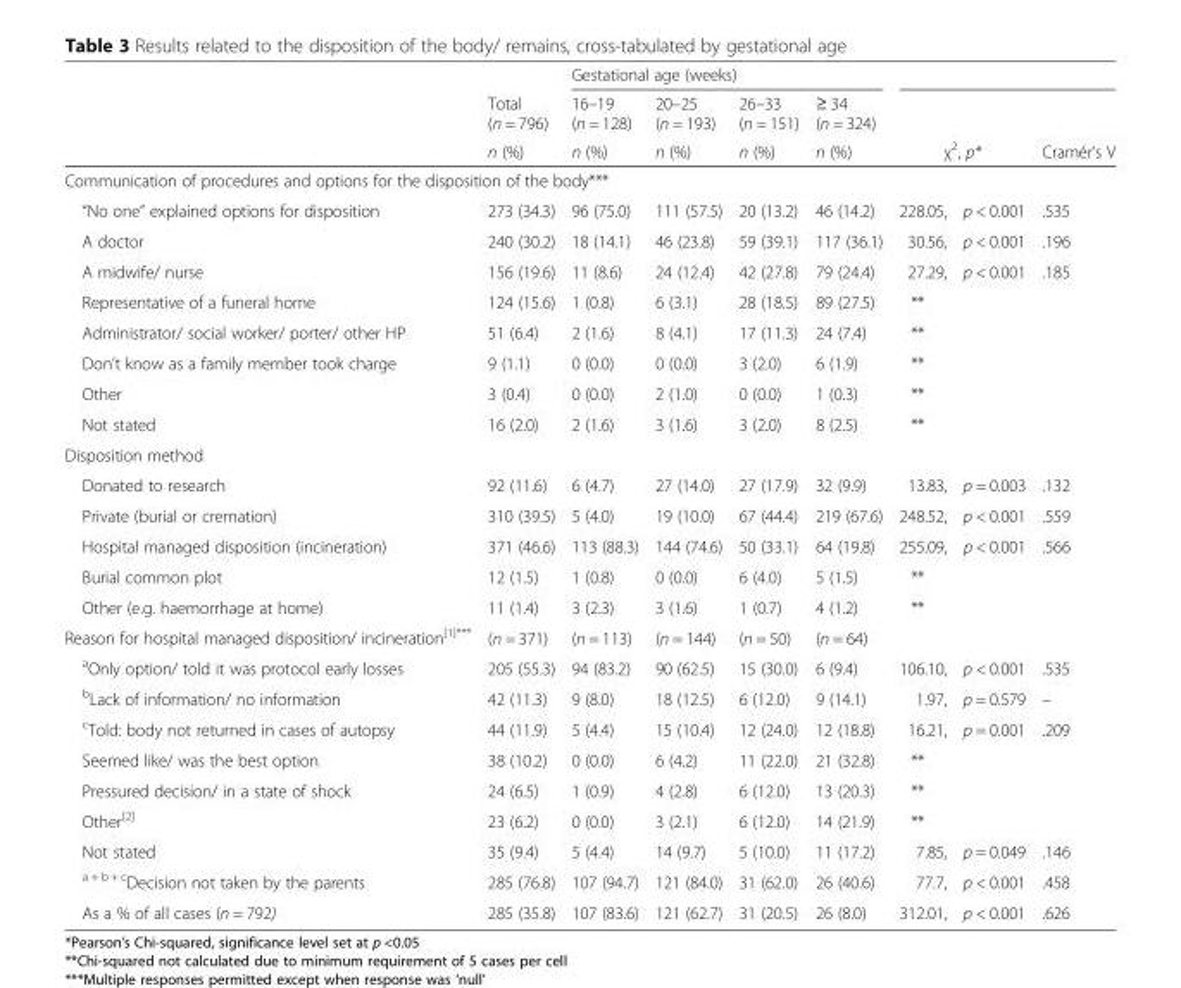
<table><thead><tr><td rowspan="3"></td><td rowspan="3">Total (n = 796) n (%)</td><td colspan="4">Gestational age (weeks)</td><td rowspan="2"></td><td rowspan="2"></td><td rowspan="3">Cramér’s V</td></tr><tr><td rowspan="2">16–19 (n = 128) n (%)</td><td rowspan="2">20–25 (n = 193) n (%)</td><td rowspan="2">26–33 (n = 151) n (%)</td><td rowspan="2">≥ 34 (n = 324) n (%)</td></tr><tr><td colspan="2">χ<sup>2</sup>, p*</td></tr></thead><tbody><tr><td colspan="9">Communication of procedures and options for the disposition of the body***</td></tr><tr><td>“No one” explained options for disposition</td><td>273 (34.3)</td><td>96 (75.0)</td><td>111 (57.5)</td><td>20 (13.2)</td><td>46 (14.2)</td><td>228.05,</td><td>p &lt; 0.001</td><td>.535</td></tr><tr><td>A doctor</td><td>240 (30.2)</td><td>18 (14.1)</td><td>46 (23.8)</td><td>59 (39.1)</td><td>117 (36.1)</td><td>30.56,</td><td>p &lt; 0.001</td><td>.196</td></tr><tr><td>A midwife/ nurse</td><td>156 (19.6)</td><td>11 (8.6)</td><td>24 (12.4)</td><td>42 (27.8)</td><td>79 (24.4)</td><td>27.29,</td><td>p &lt; 0.001</td><td>.185</td></tr><tr><td>Representative of a funeral home</td><td>124 (15.6)</td><td>1 (0.8)</td><td>6 (3.1)</td><td>28 (18.5)</td><td>89 (27.5)</td><td>**</td><td></td><td></td></tr><tr><td>Administrator/ social worker/ porter/ other HP</td><td>51 (6.4)</td><td>2 (1.6)</td><td>8 (4.1)</td><td>17 (11.3)</td><td>24 (7.4)</td><td>**</td><td></td><td></td></tr><tr><td>Don’t know as a family member took charge</td><td>9 (1.1)</td><td>0 (0.0)</td><td>0 (0.0)</td><td>3 (2.0)</td><td>6 (1.9)</td><td>**</td><td></td><td></td></tr><tr><td>Other</td><td>3 (0.4)</td><td>0 (0.0)</td><td>2 (1.0)</td><td>0 (0.0)</td><td>1 (0.3)</td><td>**</td><td></td><td></td></tr><tr><td>Not stated</td><td>16 (2.0)</td><td>2 (1.6)</td><td>3 (1.6)</td><td>3 (2.0)</td><td>8 (2.5)</td><td>**</td><td></td><td></td></tr><tr><td colspan="9">Disposition method</td></tr><tr><td>Donated to research</td><td>92 (11.6)</td><td>6 (4.7)</td><td>27 (14.0)</td><td>27 (17.9)</td><td>32 (9.9)</td><td>13.83,</td><td>p = 0.003</td><td>.132</td></tr><tr><td>Private (burial or cremation)</td><td>310 (39.5)</td><td>5 (4.0)</td><td>19 (10.0)</td><td>67 (44.4)</td><td>219 (67.6)</td><td>248.52,</td><td>p &lt; 0.001</td><td>.559</td></tr><tr><td>Hospital managed disposition (incineration)</td><td>371 (46.6)</td><td>113 (88.3)</td><td>144 (74.6)</td><td>50 (33.1)</td><td>64 (19.8)</td><td>255.09,</td><td>p &lt; 0.001</td><td>.566</td></tr><tr><td>Burial common plot</td><td>12 (1.5)</td><td>1 (0.8)</td><td>0 (0.0)</td><td>6 (4.0)</td><td>5 (1.5)</td><td>**</td><td></td><td></td></tr><tr><td>Other (e.g. haemorrhage at home)</td><td>11 (1.4)</td><td>3 (2.3)</td><td>3 (1.6)</td><td>1 (0.7)</td><td>4 (1.2)</td><td>**</td><td></td><td></td></tr><tr><td>Reason for hospital managed disposition/ incineration<sup>[1]***</sup></td><td>(n = 371)</td><td>(n = 113)</td><td>(n = 144)</td><td>(n = 50)</td><td>(n = 64)</td><td></td><td></td><td></td></tr><tr><td><sup>a</sup>Only option/ told it was protocol early losses</td><td>205 (55.3)</td><td>94 (83.2)</td><td>90 (62.5)</td><td>15 (30.0)</td><td>6 (9.4)</td><td>106.10,</td><td>p &lt; 0.001</td><td>.535</td></tr><tr><td><sup>b</sup>Lack of information/ no information</td><td>42 (11.3)</td><td>9 (8.0)</td><td>18 (12.5)</td><td>6 (12.0)</td><td>9 (14.1)</td><td>1.97,</td><td>p = 0.579</td><td>–</td></tr><tr><td><sup>c</sup>Told: body not returned in cases of autopsy</td><td>44 (11.9)</td><td>5 (4.4)</td><td>15 (10.4)</td><td>12 (24.0)</td><td>12 (18.8)</td><td>16.21,</td><td>p = 0.001</td><td>.209</td></tr><tr><td>Seemed like/ was the best option</td><td>38 (10.2)</td><td>0 (0.0)</td><td>6 (4.2)</td><td>11 (22.0)</td><td>21 (32.8)</td><td>**</td><td></td><td></td></tr><tr><td>Pressured decision/ in a state of shock</td><td>24 (6.5)</td><td>1 (0.9)</td><td>4 (2.8)</td><td>6 (12.0)</td><td>13 (20.3)</td><td>**</td><td></td><td></td></tr><tr><td>Other<sup>[2]</sup></td><td>23 (6.2)</td><td>0 (0.0)</td><td>3 (2.1)</td><td>6 (12.0)</td><td>14 (21.9)</td><td>**</td><td></td><td></td></tr><tr><td>Not stated</td><td>35 (9.4)</td><td>5 (4.4)</td><td>14 (9.7)</td><td>5 (10.0)</td><td>11 (17.2)</td><td>7.85,</td><td>p = 0.049</td><td>.146</td></tr><tr><td><sup>a + b + c</sup>Decision not taken by the parents</td><td>285 (76.8)</td><td>107 (94.7)</td><td>121 (84.0)</td><td>31 (62.0)</td><td>26 (40.6)</td><td>77.7,</td><td>p &lt; 0.001</td><td>.458</td></tr><tr><td>As a % of all cases (n = 792)</td><td>285 (35.8)</td><td>107 (83.6)</td><td>121 (62.7)</td><td>31 (20.5)</td><td>26 (8.0)</td><td>312.01,</td><td>p &lt; 0.001</td><td>.626</td></tr></tbody></table>